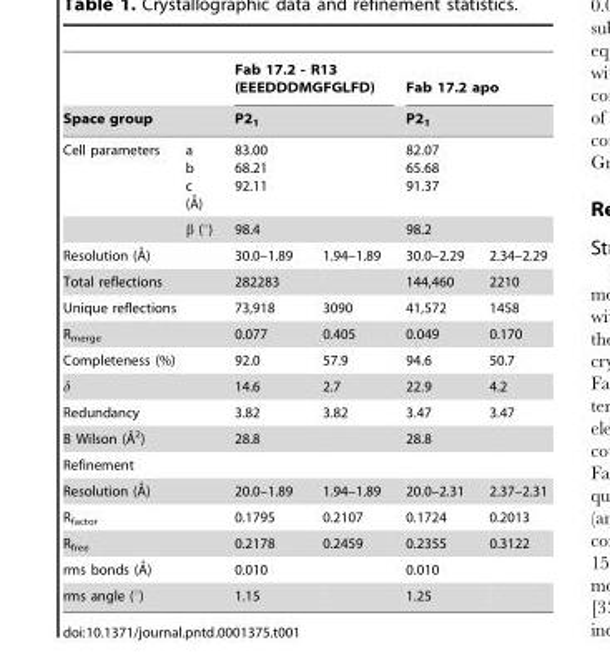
<table><thead><tr><td></td><td></td><td rowspan="4" colspan="2">Fab 17.2 - R13 (EEEDDDMGFGLFD) P2<sub>1</sub> 83.00 68.21 92.11 98.4</td><td rowspan="4" colspan="2">Fab 17.2 apo P2<sub>1</sub> 82.07 65.68 91.37 98.2</td></tr><tr><td colspan="2">Space group</td></tr><tr><td rowspan="2">Cell parameters</td><td rowspan="2">a b c (A˚) b (u)</td></tr><tr></tr><tr><td colspan="2">Resolution (A˚)</td><td>30.0–1.89</td><td>1.94–1.89</td><td>30.0–2.29</td><td>2.34–2.29</td></tr></thead><tbody><tr><td colspan="2">Total reflections</td><td>282283</td><td></td><td>144,460</td><td>2210</td></tr><tr><td colspan="2">Unique reflections</td><td>73,918</td><td>3090</td><td>41,572</td><td>1458</td></tr><tr><td colspan="2">R<sub>merge</sub></td><td>0.077</td><td>0.405</td><td>0.049</td><td>0.170</td></tr><tr><td colspan="2">Completeness (%)</td><td>92.0</td><td>57.9</td><td>94.6</td><td>50.7</td></tr><tr><td colspan="2">δ</td><td>14.6</td><td>2.7</td><td>22.9</td><td>4.2</td></tr><tr><td colspan="2">Redundancy</td><td>3.82</td><td>3.82</td><td>3.47</td><td>3.47</td></tr><tr><td colspan="2">B Wilson (A˚2)</td><td colspan="2">28.8</td><td colspan="2">28.8</td></tr><tr><td colspan="6">Refinement</td></tr><tr><td colspan="2">Resolution (A˚)</td><td>20.0–1.89</td><td>1.94–1.89</td><td>20.0–2.31</td><td>2.37–2.31</td></tr><tr><td colspan="2">R<sub>factor</sub></td><td>0.1795</td><td>0.2107</td><td>0.1724</td><td>0.2013</td></tr><tr><td colspan="2">R<sub>free</sub></td><td>0.2178</td><td>0.2459</td><td>0.2355</td><td>0.3122</td></tr><tr><td colspan="2">rms bonds (A˚)</td><td>0.010</td><td></td><td>0.010</td><td></td></tr><tr><td colspan="2">rms angle (°)</td><td>1.15</td><td></td><td>1.25</td><td></td></tr></tbody></table>